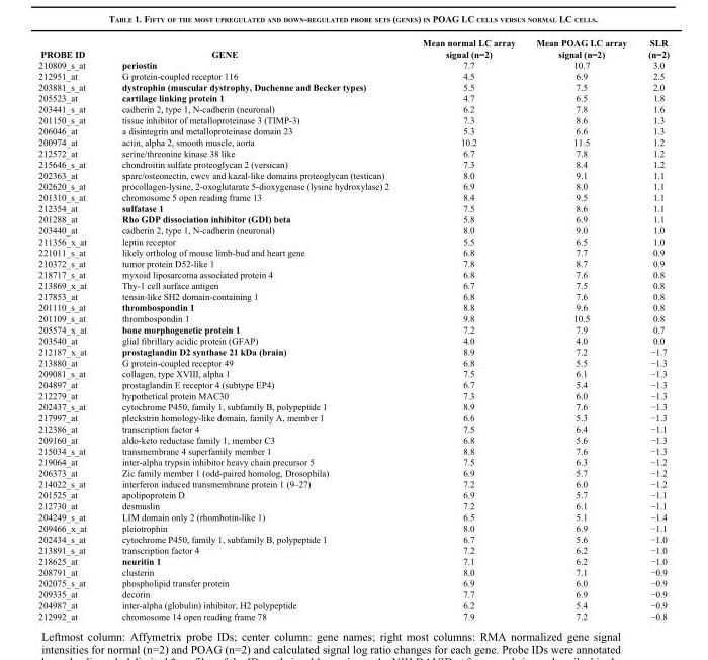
<table><thead><tr><td>PROBE ID</td><td>GENE</td><td>Mean normal LC array signal (n=2)</td><td>Mean POAG LC array signal (n=2)</td><td>SLR (n=2)</td></tr></thead><tbody><tr><td>210809_s_at</td><td>periostin</td><td>7.7</td><td>10.7</td><td>3.0</td></tr><tr><td>212951_at</td><td>G protein-coupled receptor 116</td><td>4.5</td><td>6.9</td><td>2.5</td></tr><tr><td>203881_s_at</td><td>dystrophin (muscular dystrophy, Duchenne and Becker types)</td><td>5.5</td><td>7.5</td><td>2.0</td></tr><tr><td>205523_at</td><td>cartilage linking protein 1</td><td>4.7</td><td>6.5</td><td>1.8</td></tr><tr><td>203441_s_at</td><td>cadherin 2, type 1, N-cadherin (neuronal)</td><td>6.2</td><td>7.8</td><td>1.6</td></tr><tr><td>201150_s_at</td><td>tissue inhibitor of metalloproteinase 3 (TIMP-3)</td><td>7.3</td><td>8.6</td><td>1.3</td></tr><tr><td>206046_at</td><td>a disintegrin and metalloproteinase domain 23</td><td>5.3</td><td>6.6</td><td>1.3</td></tr><tr><td>200974_at</td><td>actin, alpha 2, smooth muscle, aorta</td><td>10.2</td><td>11.5</td><td>1.2</td></tr><tr><td>212572_at</td><td>serine/threonine kinase 38 like</td><td>6.7</td><td>7.8</td><td>1.2</td></tr><tr><td>215646_s_at</td><td>chondroitin sulfate proteoglycan 2 (versican)</td><td>7.3</td><td>8.4</td><td>1.2</td></tr><tr><td>202363_at</td><td>sparc/osteonectin, cwcv and kazal-like domains proteoglycan (testican)</td><td>8.0</td><td>9.1</td><td>1.1</td></tr><tr><td>202620_s_at</td><td>procollagen-lysine, 2-oxoglutarate 5-dioxygenase (lysine hydroxylase) 2</td><td>6.9</td><td>8.0</td><td>1.1</td></tr><tr><td>201310_s_at</td><td>chromosome 5 open reading frame 13</td><td>8.4</td><td>9.5</td><td>1.1</td></tr><tr><td>212354_at</td><td>sulfatase 1</td><td>7.5</td><td>8.6</td><td>1.1</td></tr><tr><td>201288_at</td><td>Rho GDP dissociation inhibitor (GDI) beta</td><td>5.8</td><td>6.9</td><td>1.1</td></tr><tr><td>203440_at</td><td>cadherin 2, type 1, N-cadherin (neuronal)</td><td>8.0</td><td>9.0</td><td>1.0</td></tr><tr><td>211356_x_at</td><td>leptin receptor</td><td>5.5</td><td>6.5</td><td>1.0</td></tr><tr><td>221011_s_at</td><td>likely ortholog of mouse limb-bud and heart gene</td><td>6.8</td><td>7.7</td><td>0.9</td></tr><tr><td>210372_s_at</td><td>tumor protein D52-like 1</td><td>7.8</td><td>8.7</td><td>0.9</td></tr><tr><td>218717_s_at</td><td>myxoid liposarcoma associated protein 4</td><td>6.8</td><td>7.6</td><td>0.8</td></tr><tr><td>213869_x_at</td><td>Thy-1 cell surface antigen</td><td>6.7</td><td>7.5</td><td>0.8</td></tr><tr><td>217853_at</td><td>tensin-like SH2 domain-containing 1</td><td>6.8</td><td>7.6</td><td>0.8</td></tr><tr><td>201110_s_at</td><td>thrombospondin 1</td><td>8.8</td><td>9.6</td><td>0.8</td></tr><tr><td>201109_s_at</td><td>thrombospondin 1</td><td>9.8</td><td>10.5</td><td>0.8</td></tr><tr><td>205574_x_at</td><td>bone morphogenetic protein 1</td><td>7.2</td><td>7.9</td><td>0.7</td></tr><tr><td>203540_at</td><td>glial fibrillary acidic protein (GFAP)</td><td>4.0</td><td>4.0</td><td>0.0</td></tr><tr><td>212187_x_at</td><td>prostaglandin D2 synthase 21 kDa (brain)</td><td>8.9</td><td>7.2</td><td>−1.7</td></tr><tr><td>213880_at</td><td>G protein-coupled receptor 49</td><td>6.8</td><td>5.5</td><td>−1.3</td></tr><tr><td>209081_s_at</td><td>collagen, type XVIII, alpha 1</td><td>7.5</td><td>6.1</td><td>−1.3</td></tr><tr><td>204897_at</td><td>prostaglandin E receptor 4 (subtype EP4)</td><td>6.7</td><td>5.4</td><td>−1.3</td></tr><tr><td>212279_at</td><td>hypothetical protein MAC30</td><td>7.3</td><td>6.0</td><td>−1.3</td></tr><tr><td>202437_s_at</td><td>cytochrome P450, family 1, subfamily B, polypeptide 1</td><td>8.9</td><td>7.6</td><td>−1.3</td></tr><tr><td>217997_at</td><td>pleckstrin homology-like domain, family A, member 1</td><td>6.6</td><td>5.3</td><td>−1.3</td></tr><tr><td>212386_at</td><td>transcription factor 4</td><td>7.5</td><td>6.4</td><td>−1.1</td></tr><tr><td>209160_at</td><td>aldo-keto reductase family 1, member C3</td><td>6.8</td><td>5.6</td><td>−1.3</td></tr><tr><td>215034_s_at</td><td>transmembrane 4 superfamily member 1</td><td>8.8</td><td>7.6</td><td>−1.3</td></tr><tr><td>219064_at</td><td>inter-alpha trypsin inhibitor heavy chain precursor 5</td><td>7.5</td><td>6.3</td><td>−1.2</td></tr><tr><td>206373_at</td><td>Zic family member 1 (odd-paired homolog, Drosophila)</td><td>6.9</td><td>5.7</td><td>−1.2</td></tr><tr><td>214022_s_at</td><td>interferon induced transmembrane protein 1 (9–27)</td><td>7.2</td><td>6.0</td><td>−1.2</td></tr><tr><td>201525_at</td><td>apolipoprotein D</td><td>6.9</td><td>5.7</td><td>−1.1</td></tr><tr><td>212730_at</td><td>desmuslin</td><td>7.2</td><td>6.1</td><td>−1.1</td></tr><tr><td>204249_s_at</td><td>LIM domain only 2 (rhombotin-like 1)</td><td>6.5</td><td>5.1</td><td>−1.4</td></tr><tr><td>209466_x_at</td><td>pleiotrophin</td><td>8.0</td><td>6.9</td><td>−1.1</td></tr><tr><td>202434_s_at</td><td>cytochrome P450, family 1, subfamily B, polypeptide 1</td><td>6.7</td><td>5.6</td><td>−1.0</td></tr><tr><td>213891_s_at</td><td>transcription factor 4</td><td>7.2</td><td>6.2</td><td>−1.0</td></tr><tr><td>218625_at</td><td>neuritin 1</td><td>7.1</td><td>6.2</td><td>−1.0</td></tr><tr><td>208791_at</td><td>clusterin</td><td>8.0</td><td>7.1</td><td>−0.9</td></tr><tr><td>202075_s_at</td><td>phospholipid transfer protein</td><td>6.9</td><td>6.0</td><td>−0.9</td></tr><tr><td>209335_at</td><td>decorin</td><td>7.7</td><td>6.9</td><td>−0.9</td></tr><tr><td>204987_at</td><td>inter-alpha (globulin) inhibitor, H2 polypeptide</td><td>6.2</td><td>5.4</td><td>−0.9</td></tr><tr><td>212992_at</td><td>chromosome 14 open reading frame 78</td><td>7.9</td><td>7.2</td><td>−0.8</td></tr></tbody></table>